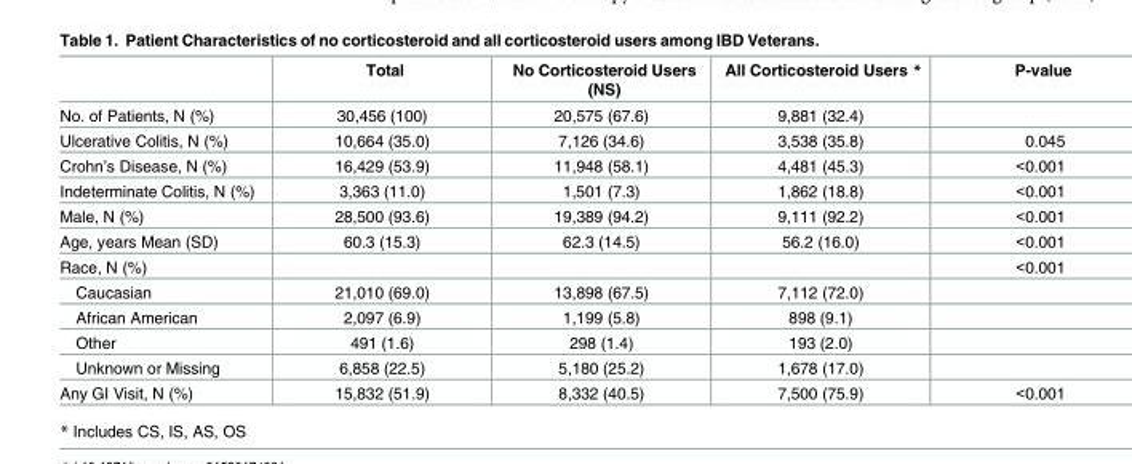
<table><thead><tr><td></td><td>Total</td><td>No Corticosteroid Users (NS)</td><td>All Corticosteroid Users *</td><td>P-value</td></tr></thead><tbody><tr><td>No. of Patients, N (%)</td><td>30,456 (100)</td><td>20,575 (67.6)</td><td>9,881 (32.4)</td><td></td></tr><tr><td>Ulcerative Colitis, N (%)</td><td>10,664 (35.0)</td><td>7,126 (34.6)</td><td>3,538 (35.8)</td><td>0.045</td></tr><tr><td>Crohn’s Disease, N (%)</td><td>16,429 (53.9)</td><td>11,948 (58.1)</td><td>4,481 (45.3)</td><td>&lt;0.001</td></tr><tr><td>Indeterminate Colitis, N (%)</td><td>3,363 (11.0)</td><td>1,501 (7.3)</td><td>1,862 (18.8)</td><td>&lt;0.001</td></tr><tr><td>Male, N (%)</td><td>28,500 (93.6)</td><td>19,389 (94.2)</td><td>9,111 (92.2)</td><td>&lt;0.001</td></tr><tr><td>Age, years Mean (SD)</td><td>60.3 (15.3)</td><td>62.3 (14.5)</td><td>56.2 (16.0)</td><td>&lt;0.001</td></tr><tr><td>Race, N (%)</td><td></td><td></td><td></td><td>&lt;0.001</td></tr><tr><td>Caucasian</td><td>21,010 (69.0)</td><td>13,898 (67.5)</td><td>7,112 (72.0)</td><td></td></tr><tr><td>African American</td><td>2,097 (6.9)</td><td>1,199 (5.8)</td><td>898 (9.1)</td><td></td></tr><tr><td>Other</td><td>491 (1.6)</td><td>298 (1.4)</td><td>193 (2.0)</td><td></td></tr><tr><td>Unknown or Missing</td><td>6,858 (22.5)</td><td>5,180 (25.2)</td><td>1,678 (17.0)</td><td></td></tr><tr><td>Any GI Visit, N (%)</td><td>15,832 (51.9)</td><td>8,332 (40.5)</td><td>7,500 (75.9)</td><td>&lt;0.001</td></tr></tbody></table>